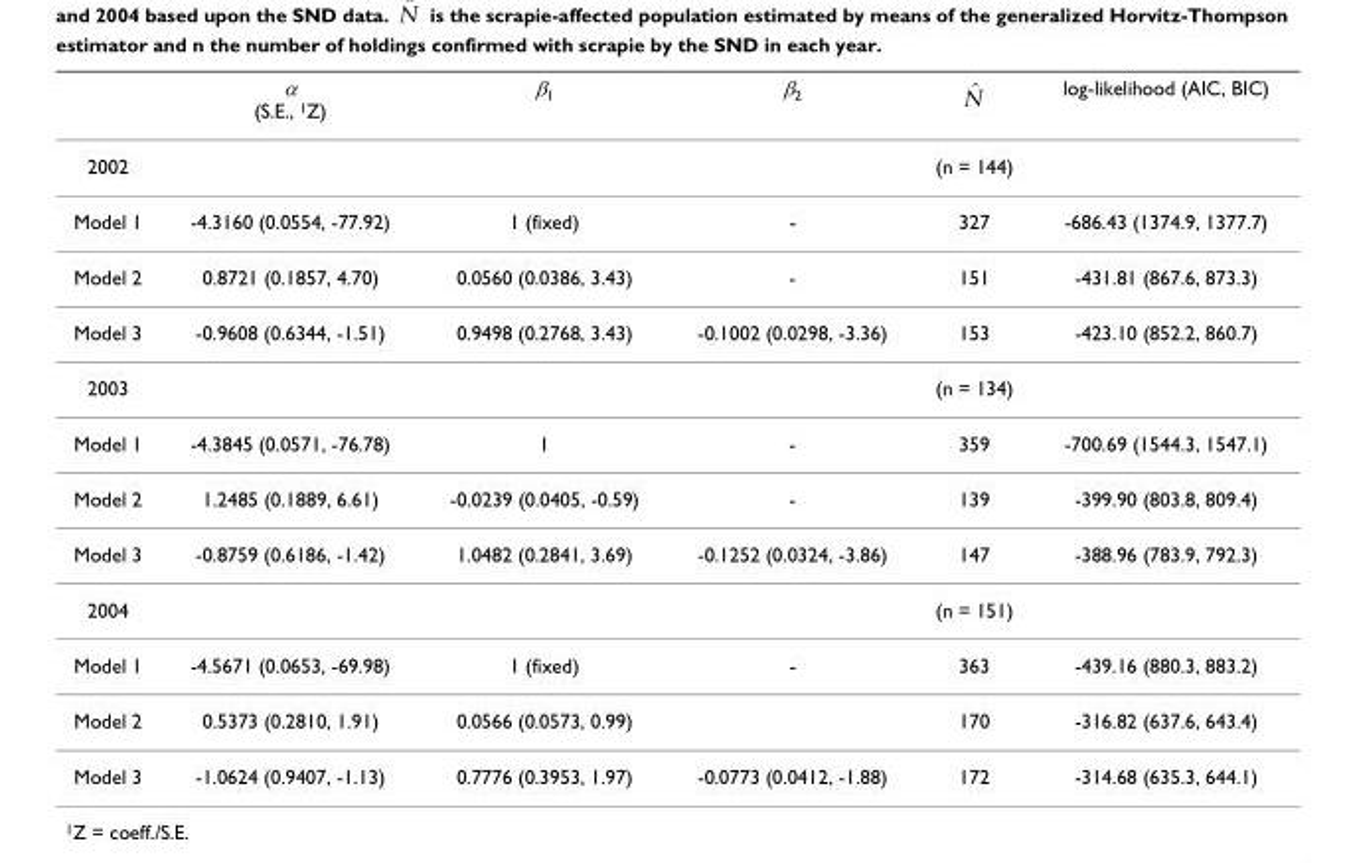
<table><thead><tr><td></td><td>α (S.E., <sup>1</sup>Z)</td><td>β<sub>1</sub></td><td>β<sub>2</sub></td><td>ˆN</td><td>log-likelihood (AIC, BIC)</td></tr></thead><tbody><tr><td>2002</td><td></td><td></td><td></td><td>(n = 144)</td><td></td></tr><tr><td>Model 1</td><td>-4.3160 (0.0554, -77.92)</td><td>1 (fixed)</td><td>-</td><td>327</td><td>-686.43 (1374.9, 1377.7)</td></tr><tr><td>Model 2</td><td>0.8721 (0.1857, 4.70)</td><td>0.0560 (0.0386, 3.43)</td><td>-</td><td>151</td><td>-431.81 (867.6, 873.3)</td></tr><tr><td>Model 3</td><td>-0.9608 (0.6344, -1.51)</td><td>0.9498 (0.2768, 3.43)</td><td>-0.1002 (0.0298, -3.36)</td><td>153</td><td>-423.10 (852.2, 860.7)</td></tr><tr><td>2003</td><td></td><td></td><td></td><td>(n = 134)</td><td></td></tr><tr><td>Model 1</td><td>-4.3845 (0.0571, -76.78)</td><td>1</td><td>-</td><td>359</td><td>-700.69 (1544.3, 1547.1)</td></tr><tr><td>Model 2</td><td>1.2485 (0.1889, 6.61)</td><td>-0.0239 (0.0405, -0.59)</td><td>-</td><td>139</td><td>-399.90 (803.8, 809.4)</td></tr><tr><td>Model 3</td><td>-0.8759 (0.6186, -1.42)</td><td>1.0482 (0.2841, 3.69)</td><td>-0.1252 (0.0324, -3.86)</td><td>147</td><td>-388.96 (783.9, 792.3)</td></tr><tr><td>2004</td><td></td><td></td><td></td><td>(n = 151)</td><td></td></tr><tr><td>Model 1</td><td>-4.5671 (0.0653, -69.98)</td><td>1 (fixed)</td><td>-</td><td>363</td><td>-439.16 (880.3, 883.2)</td></tr><tr><td>Model 2</td><td>0.5373 (0.2810, 1.91)</td><td>0.0566 (0.0573, 0.99)</td><td></td><td>170</td><td>-316.82 (637.6, 643.4)</td></tr><tr><td>Model 3</td><td>-1.0624 (0.9407, -1.13)</td><td>0.7776 (0.3953, 1.97)</td><td>-0.0773 (0.0412, -1.88)</td><td>172</td><td>-314.68 (635.3, 644.1)</td></tr></tbody></table>